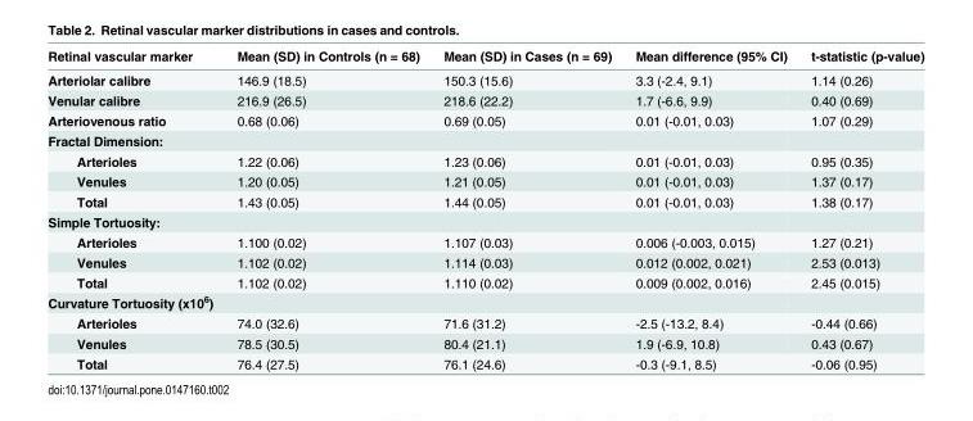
<table><thead><tr><td>Retinal vascular marker</td><td>Mean (SD) in Controls (n = 68)</td><td>Mean (SD) in Cases (n = 69)</td><td>Mean difference (95% CI)</td><td>t-statistic (p-value)</td></tr></thead><tbody><tr><td>Arteriolar calibre</td><td>146.9 (18.5)</td><td>150.3 (15.6)</td><td>3.3 (-2.4, 9.1)</td><td>1.14 (0.26)</td></tr><tr><td>Venular calibre</td><td>216.9 (26.5)</td><td>218.6 (22.2)</td><td>1.7 (-6.6, 9.9)</td><td>0.40 (0.69)</td></tr><tr><td>Arteriovenous ratio</td><td>0.68 (0.06)</td><td>0.69 (0.05)</td><td>0.01 (-0.01, 0.03)</td><td>1.07 (0.29)</td></tr><tr><td colspan="5">Fractal Dimension:</td></tr><tr><td>Arterioles</td><td>1.22 (0.06)</td><td>1.23 (0.06)</td><td>0.01 (-0.01, 0.03)</td><td>0.95 (0.35)</td></tr><tr><td>Venules</td><td>1.20 (0.05)</td><td>1.21 (0.05)</td><td>0.01 (-0.01, 0.03)</td><td>1.37 (0.17)</td></tr><tr><td>Total</td><td>1.43 (0.05)</td><td>1.44 (0.05)</td><td>0.01 (-0.01, 0.03)</td><td>1.38 (0.17)</td></tr><tr><td colspan="5">Simple Tortuosity:</td></tr><tr><td>Arterioles</td><td>1.100 (0.02)</td><td>1.107 (0.03)</td><td>0.006 (-0.003, 0.015)</td><td>1.27 (0.21)</td></tr><tr><td>Venules</td><td>1.102 (0.02)</td><td>1.114 (0.03)</td><td>0.012 (0.002, 0.021)</td><td>2.53 (0.013)</td></tr><tr><td>Total</td><td>1.102 (0.02)</td><td>1.110 (0.02)</td><td>0.009 (0.002, 0.016)</td><td>2.45 (0.015)</td></tr><tr><td colspan="5">Curvature Tortuosity (x10<sup>6</sup>)</td></tr><tr><td>Arterioles</td><td>74.0 (32.6)</td><td>71.6 (31.2)</td><td>-2.5 (-13.2, 8.4)</td><td>-0.44 (0.66)</td></tr><tr><td>Venules</td><td>78.5 (30.5)</td><td>80.4 (21.1)</td><td>1.9 (-6.9, 10.8)</td><td>0.43 (0.67)</td></tr><tr><td>Total</td><td>76.4 (27.5)</td><td>76.1 (24.6)</td><td>-0.3 (-9.1, 8.5)</td><td>-0.06 (0.95)</td></tr></tbody></table>